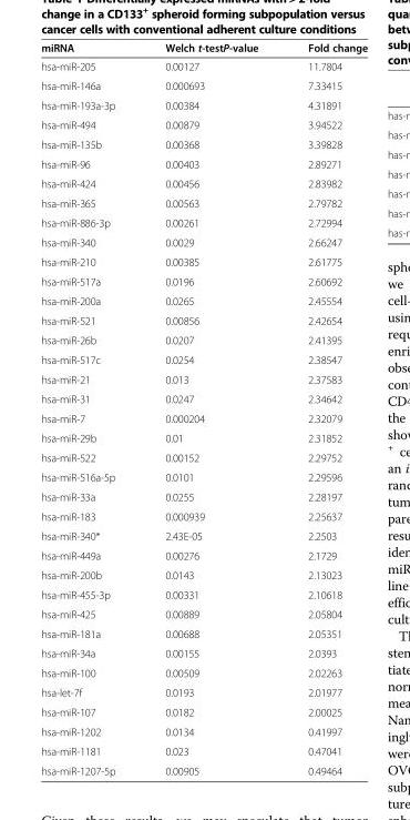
<table><thead><tr><td>miRNA</td><td>Welch t-testP-value</td><td>Fold change</td></tr></thead><tbody><tr><td>hsa-miR-205</td><td>0.00127</td><td>11.7804</td></tr><tr><td>hsa-miR-146a</td><td>0.000693</td><td>7.33415</td></tr><tr><td>hsa-miR-193a-3p</td><td>0.00384</td><td>4.31891</td></tr><tr><td>hsa-miR-494</td><td>0.00879</td><td>3.94522</td></tr><tr><td>hsa-miR-135b</td><td>0.00368</td><td>3.39828</td></tr><tr><td>hsa-miR-96</td><td>0.00403</td><td>2.89271</td></tr><tr><td>hsa-miR-424</td><td>0.00456</td><td>2.83982</td></tr><tr><td>hsa-miR-365</td><td>0.00563</td><td>2.79782</td></tr><tr><td>hsa-miR-886-3p</td><td>0.00261</td><td>2.72994</td></tr><tr><td>hsa-miR-340</td><td>0.0029</td><td>2.66247</td></tr><tr><td>hsa-miR-210</td><td>0.00385</td><td>2.61775</td></tr><tr><td>hsa-miR-517a</td><td>0.0196</td><td>2.60692</td></tr><tr><td>hsa-miR-200a</td><td>0.0265</td><td>2.45554</td></tr><tr><td>hsa-miR-521</td><td>0.00856</td><td>2.42654</td></tr><tr><td>hsa-miR-26b</td><td>0.0207</td><td>2.41395</td></tr><tr><td>hsa-miR-517c</td><td>0.0254</td><td>2.38547</td></tr><tr><td>hsa-miR-21</td><td>0.013</td><td>2.37583</td></tr><tr><td>hsa-miR-31</td><td>0.0247</td><td>2.34642</td></tr><tr><td>hsa-miR-7</td><td>0.000204</td><td>2.32079</td></tr><tr><td>hsa-miR-29b</td><td>0.01</td><td>2.31852</td></tr><tr><td>hsa-miR-522</td><td>0.00152</td><td>2.29752</td></tr><tr><td>hsa-miR-516a-5p</td><td>0.0101</td><td>2.29596</td></tr><tr><td>hsa-miR-33a</td><td>0.0255</td><td>2.28197</td></tr><tr><td>hsa-miR-183</td><td>0.000939</td><td>2.25637</td></tr><tr><td>hsa-miR-340*</td><td>2.43E-05</td><td>2.2503</td></tr><tr><td>hsa-miR-449a</td><td>0.00276</td><td>2.1729</td></tr><tr><td>hsa-miR-200b</td><td>0.0143</td><td>2.13023</td></tr><tr><td>hsa-miR-455-3p</td><td>0.00331</td><td>2.10618</td></tr><tr><td>hsa-miR-425</td><td>0.00889</td><td>2.05804</td></tr><tr><td>hsa-miR-181a</td><td>0.00688</td><td>2.05351</td></tr><tr><td>hsa-miR-34a</td><td>0.00155</td><td>2.0393</td></tr><tr><td>hsa-miR-100</td><td>0.00509</td><td>2.02263</td></tr><tr><td>hsa-let-7f</td><td>0.0193</td><td>2.01977</td></tr><tr><td>hsa-miR-107</td><td>0.0182</td><td>2.00025</td></tr><tr><td>hsa-miR-1202</td><td>0.0134</td><td>0.41997</td></tr><tr><td>hsa-miR-1181</td><td>0.023</td><td>0.47041</td></tr><tr><td>hsa-miR-1207-5p</td><td>0.00905</td><td>0.49464</td></tr></tbody></table>